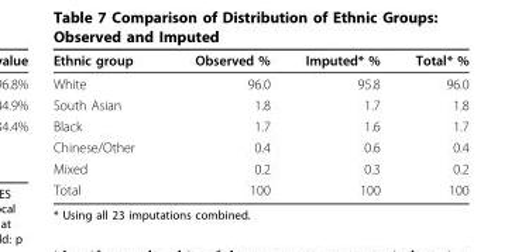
<table><thead><tr><td>Ethnic group</td><td>Observed %</td><td>Imputed* %</td><td>Total* %</td></tr></thead><tbody><tr><td>White</td><td>96.0</td><td>95.8</td><td>96.0</td></tr><tr><td>South Asian</td><td>1.8</td><td>1.7</td><td>1.8</td></tr><tr><td>Black</td><td>1.7</td><td>1.6</td><td>1.7</td></tr><tr><td>Chinese/Other</td><td>0.4</td><td>0.6</td><td>0.4</td></tr><tr><td>Mixed</td><td>0.2</td><td>0.3</td><td>0.2</td></tr><tr><td>Total</td><td>100</td><td>100</td><td>100</td></tr></tbody></table>